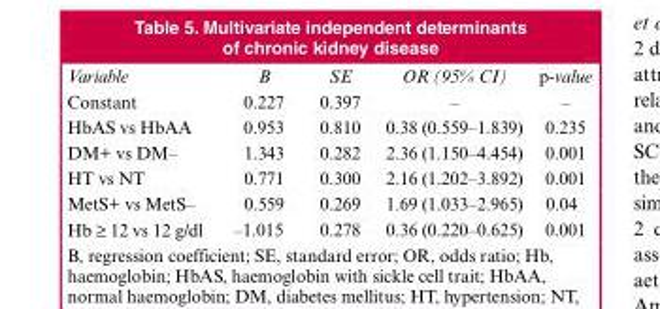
<table><thead><tr><td>Variable</td><td>B</td><td>SE</td><td>OR (95% CI)</td><td>p-value</td></tr></thead><tbody><tr><td>Constant</td><td>0.227</td><td>0.397</td><td>–</td><td>–</td></tr><tr><td>HbAS vs HbAA</td><td>0.953</td><td>0.810</td><td>0.38 (0.559–1.839)</td><td>0.235</td></tr><tr><td>DM+ vs DM–</td><td>1.343</td><td>0.282</td><td>2.36 (1.150–4.454)</td><td>0.001</td></tr><tr><td>HT vs NT</td><td>0.771</td><td>0.300</td><td>2.16 (1.202–3.892)</td><td>0.001</td></tr><tr><td>MetS+ vs MetS–</td><td>0.559</td><td>0.269</td><td>1.69 (1.033–2.965)</td><td>0.04</td></tr><tr><td>Hb ≥ 12 vs 12 g/dl</td><td>–1.015</td><td>0.278</td><td>0.36 (0.220–0.625)</td><td>0.001</td></tr></tbody></table>